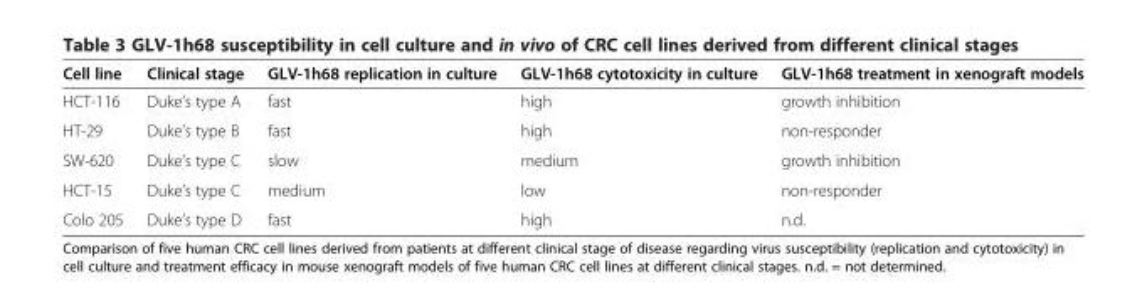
<table><thead><tr><td>Cell line</td><td>Clinical stage</td><td>GLV-1h68 replication in culture</td><td>GLV-1h68 cytotoxicity in culture</td><td>GLV-1h68 treatment in xenograft models</td></tr></thead><tbody><tr><td>HCT-116</td><td>Duke’s type A</td><td>fast</td><td>high</td><td>growth inhibition</td></tr><tr><td>HT-29</td><td>Duke’s type B</td><td>fast</td><td>high</td><td>non-responder</td></tr><tr><td>SW-620</td><td>Duke’s type C</td><td>slow</td><td>medium</td><td>growth inhibition</td></tr><tr><td>HCT-15</td><td>Duke’s type C</td><td>medium</td><td>low</td><td>non-responder</td></tr><tr><td>Colo 205</td><td>Duke’s type D</td><td>fast</td><td>high</td><td>n.d.</td></tr></tbody></table>